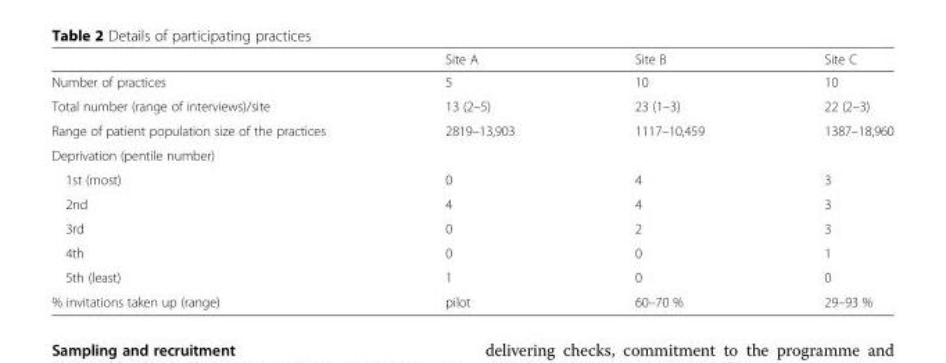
<table><thead><tr><td></td><td>Site A</td><td>Site B</td><td>Site C</td></tr></thead><tbody><tr><td>Number of practices</td><td>5</td><td>10</td><td>10</td></tr><tr><td>Total number (range of interviews)/site</td><td>13 (2–5)</td><td>23 (1–3)</td><td>22 (2–3)</td></tr><tr><td>Range of patient population size of the practices</td><td>2819–13,903</td><td>1117–10,459</td><td>1387–18,960</td></tr><tr><td colspan="4">Deprivation (pentile number)</td></tr><tr><td>1st (most)</td><td>0</td><td>4</td><td>3</td></tr><tr><td>2nd</td><td>4</td><td>4</td><td>3</td></tr><tr><td>3rd</td><td>0</td><td>2</td><td>3</td></tr><tr><td>4th</td><td>0</td><td>0</td><td>1</td></tr><tr><td>5th (least)</td><td>1</td><td>0</td><td>0</td></tr><tr><td>% invitations taken up (range)</td><td>pilot</td><td>60–70 %</td><td>29–93 %</td></tr></tbody></table>